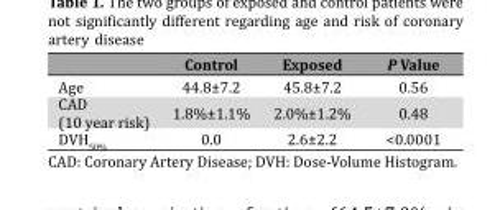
<table><thead><tr><td></td><td>Control</td><td>Exposed</td><td>P Value</td></tr></thead><tbody><tr><td>Age</td><td>44.8±7.2</td><td>45.8±7.2</td><td>0.56</td></tr><tr><td>CAD (10 year risk)</td><td>1.8%±1.1%</td><td>2.0%±1.2%</td><td>0.48</td></tr><tr><td>DVH<sub>50%</sub></td><td>0.0</td><td>2.6±2.2</td><td>&lt;0.0001</td></tr></tbody></table>